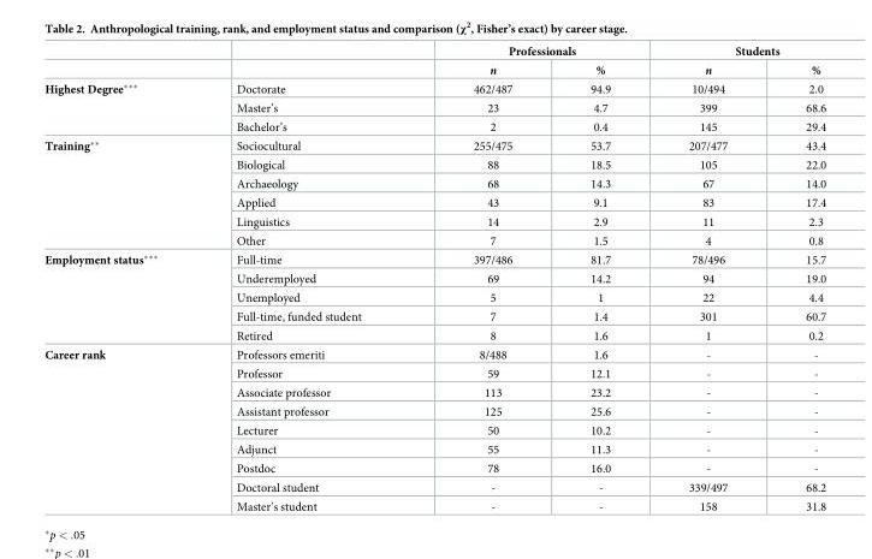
<table><thead><tr><td rowspan="2"></td><td rowspan="2"></td><td colspan="2">Professionals</td><td colspan="2">Students</td></tr><tr><td>n</td><td>%</td><td>n</td><td>%</td></tr></thead><tbody><tr><td rowspan="3">Highest Degree***</td><td>Doctorate</td><td>462/487</td><td>94.9</td><td>10/494</td><td>2.0</td></tr><tr><td>Master’s</td><td>23</td><td>4.7</td><td>399</td><td>68.6</td></tr><tr><td>Bachelor’s</td><td>2</td><td>0.4</td><td>145</td><td>29.4</td></tr><tr><td rowspan="6">Training**</td><td>Sociocultural</td><td>255/475</td><td>53.7</td><td>207/477</td><td>43.4</td></tr><tr><td>Biological</td><td>88</td><td>18.5</td><td>105</td><td>22.0</td></tr><tr><td>Archaeology</td><td>68</td><td>14.3</td><td>67</td><td>14.0</td></tr><tr><td>Applied</td><td>43</td><td>9.1</td><td>83</td><td>17.4</td></tr><tr><td>Linguistics</td><td>14</td><td>2.9</td><td>11</td><td>2.3</td></tr><tr><td>Other</td><td>7</td><td>1.5</td><td>4</td><td>0.8</td></tr><tr><td rowspan="5">Employment status***</td><td>Full-time</td><td>397/486</td><td>81.7</td><td>78/496</td><td>15.7</td></tr><tr><td>Underemployed</td><td>69</td><td>14.2</td><td>94</td><td>19.0</td></tr><tr><td>Unemployed</td><td>5</td><td>1</td><td>22</td><td>4.4</td></tr><tr><td>Full-time, funded student</td><td>7</td><td>1.4</td><td>301</td><td>60.7</td></tr><tr><td>Retired</td><td>8</td><td>1.6</td><td>1</td><td>0.2</td></tr><tr><td rowspan="9">Career rank</td><td>Professors emeriti</td><td>8/488</td><td>1.6</td><td>-</td><td>-</td></tr><tr><td>Professor</td><td>59</td><td>12.1</td><td>-</td><td>-</td></tr><tr><td>Associate professor</td><td>113</td><td>23.2</td><td>-</td><td>-</td></tr><tr><td>Assistant professor</td><td>125</td><td>25.6</td><td>-</td><td>-</td></tr><tr><td>Lecturer</td><td>50</td><td>10.2</td><td>-</td><td>-</td></tr><tr><td>Adjunct</td><td>55</td><td>11.3</td><td>-</td><td>-</td></tr><tr><td>Postdoc</td><td>78</td><td>16.0</td><td>-</td><td>-</td></tr><tr><td>Doctoral student</td><td>-</td><td>-</td><td>339/497</td><td>68.2</td></tr><tr><td>Master’s student</td><td>-</td><td>-</td><td>158</td><td>31.8</td></tr></tbody></table>